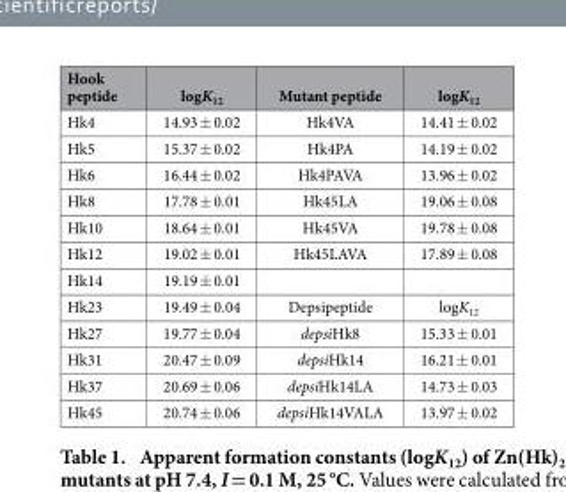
<table><thead><tr><td>Hook peptide</td><td>logK<sub>12</sub></td><td>Mutant peptide</td><td>logK<sub>12</sub></td></tr></thead><tbody><tr><td>Hk4</td><td>14.93 ± 0.02</td><td>Hk4VA</td><td>14.41 ± 0.02</td></tr><tr><td>Hk5</td><td>15.37 ± 0.02</td><td>Hk4PA</td><td>14.19 ± 0.02</td></tr><tr><td>Hk6</td><td>16.44 ± 0.02</td><td>Hk4PAVA</td><td>13.96 ± 0.02</td></tr><tr><td>Hk8</td><td>17.78 ± 0.01</td><td>Hk45LA</td><td>19.06 ± 0.08</td></tr><tr><td>Hk10</td><td>18.64 ± 0.01</td><td>Hk45VA</td><td>19.78 ± 0.08</td></tr><tr><td>Hk12</td><td>19.02 ± 0.01</td><td>Hk45LAVA</td><td>17.89 ± 0.08</td></tr><tr><td>Hk14</td><td>19.19 ± 0.01</td><td></td><td></td></tr><tr><td>Hk23</td><td>19.49 ± 0.04</td><td>Depsipeptide</td><td>logK<sub>12</sub></td></tr><tr><td>Hk27</td><td>19.77 ± 0.04</td><td>depsiHk8</td><td>15.33 ± 0.01</td></tr><tr><td>Hk31</td><td>20.47 ± 0.09</td><td>depsiHk14</td><td>16.21 ± 0.01</td></tr><tr><td>Hk37</td><td>20.69 ± 0.06</td><td>depsiHk14LA</td><td>14.73 ± 0.03</td></tr><tr><td>Hk45</td><td>20.74 ± 0.06</td><td>depsiHk14VALA</td><td>13.97 ± 0.02</td></tr></tbody></table>